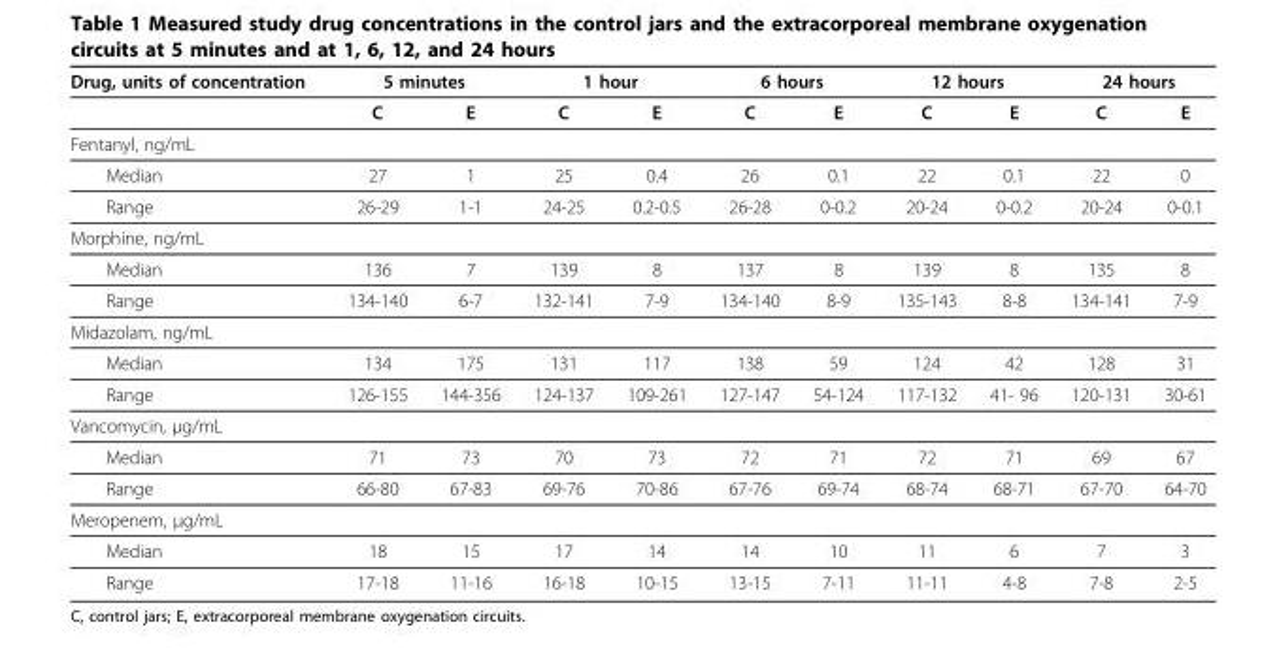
<table><thead><tr><td rowspan="2">Drug, units of concentration</td><td colspan="2">5 minutes</td><td colspan="2">1 hour</td><td colspan="2">6 hours</td><td colspan="2">12 hours</td><td colspan="2">24 hours</td></tr><tr><td>C</td><td>E</td><td>C</td><td>E</td><td>C</td><td>E</td><td>C</td><td>E</td><td>C</td><td>E</td></tr></thead><tbody><tr><td colspan="11">Fentanyl, ng/mL</td></tr><tr><td>Median</td><td>27</td><td>1</td><td>25</td><td>0.4</td><td>26</td><td>0.1</td><td>22</td><td>0.1</td><td>22</td><td>0</td></tr><tr><td>Range</td><td>26-29</td><td>1-1</td><td>24-25</td><td>0.2-0.5</td><td>26-28</td><td>0-0.2</td><td>20-24</td><td>0-0.2</td><td>20-24</td><td>0-0.1</td></tr><tr><td colspan="11">Morphine, ng/mL</td></tr><tr><td>Median</td><td>136</td><td>7</td><td>139</td><td>8</td><td>137</td><td>8</td><td>139</td><td>8</td><td>135</td><td>8</td></tr><tr><td>Range</td><td>134-140</td><td>6-7</td><td>132-141</td><td>7-9</td><td>134-140</td><td>8-9</td><td>135-143</td><td>8-8</td><td>134-141</td><td>7-9</td></tr><tr><td colspan="11">Midazolam, ng/mL</td></tr><tr><td>Median</td><td>134</td><td>175</td><td>131</td><td>117</td><td>138</td><td>59</td><td>124</td><td>42</td><td>128</td><td>31</td></tr><tr><td>Range</td><td>126-155</td><td>144-356</td><td>124-137</td><td>109-261</td><td>127-147</td><td>54-124</td><td>117-132</td><td>41- 96</td><td>120-131</td><td>30-61</td></tr><tr><td colspan="11">Vancomycin, μg/mL</td></tr><tr><td>Median</td><td>71</td><td>73</td><td>70</td><td>73</td><td>72</td><td>71</td><td>72</td><td>71</td><td>69</td><td>67</td></tr><tr><td>Range</td><td>66-80</td><td>67-83</td><td>69-76</td><td>70-86</td><td>67-76</td><td>69-74</td><td>68-74</td><td>68-71</td><td>67-70</td><td>64-70</td></tr><tr><td colspan="11">Meropenem, μg/mL</td></tr><tr><td>Median</td><td>18</td><td>15</td><td>17</td><td>14</td><td>14</td><td>10</td><td>11</td><td>6</td><td>7</td><td>3</td></tr><tr><td>Range</td><td>17-18</td><td>11-16</td><td>16-18</td><td>10-15</td><td>13-15</td><td>7-11</td><td>11-11</td><td>4-8</td><td>7-8</td><td>2-5</td></tr></tbody></table>